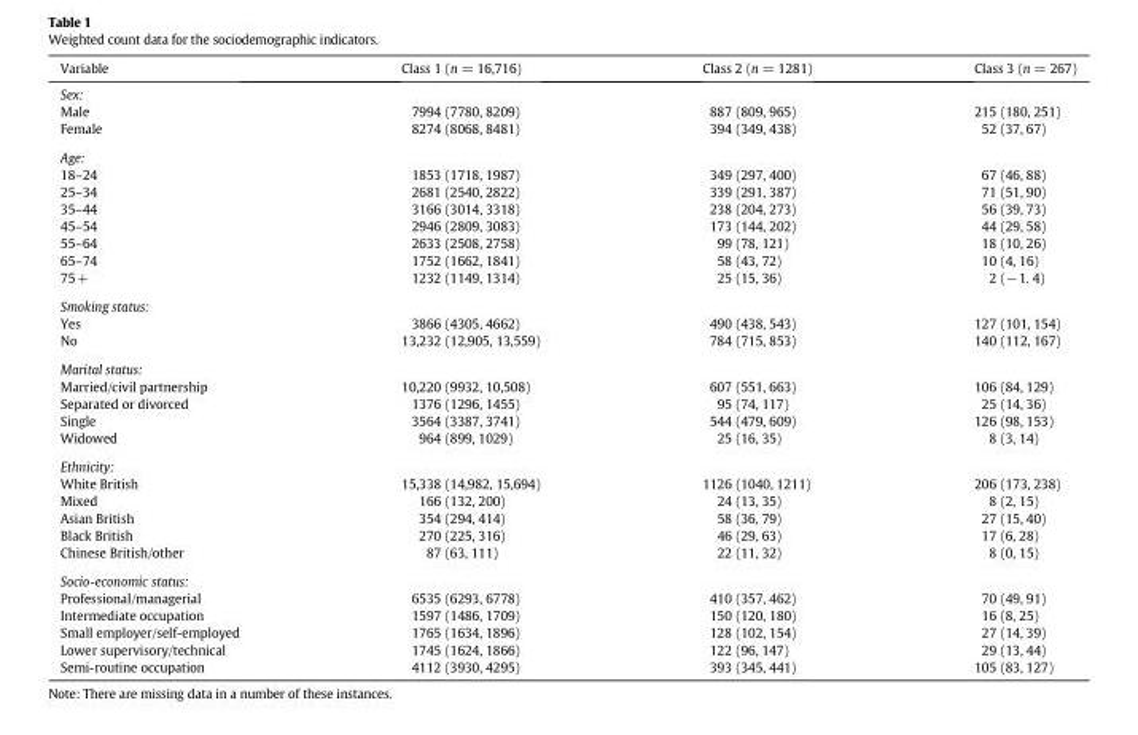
<table><thead><tr><td>Variable</td><td>Class 1 (n = 16,716)</td><td>Class 2 (n = 1281)</td><td>Class 3 (n = 267)</td></tr></thead><tbody><tr><td colspan="4">Sex:</td></tr><tr><td>Male</td><td>7994 (7780, 8209)</td><td>887 (809, 965)</td><td>215 (180, 251)</td></tr><tr><td>Female</td><td>8274 (8068, 8481)</td><td>394 (349, 438)</td><td>52 (37, 67)</td></tr><tr><td colspan="4">Age:</td></tr><tr><td>18–24</td><td>1853 (1718, 1987)</td><td>349 (297, 400)</td><td>67 (46, 88)</td></tr><tr><td>25–34</td><td>2681 (2540, 2822)</td><td>339 (291, 387)</td><td>71 (51, 90)</td></tr><tr><td>35–44</td><td>3166 (3014, 3318)</td><td>238 (204, 273)</td><td>56 (39, 73)</td></tr><tr><td>45–54</td><td>2946 (2809, 3083)</td><td>173 (144, 202)</td><td>44 (29, 58)</td></tr><tr><td>55–64</td><td>2633 (2508, 2758)</td><td>99 (78, 121)</td><td>18 (10, 26)</td></tr><tr><td>65–74</td><td>1752 (1662, 1841)</td><td>58 (43, 72)</td><td>10 (4, 16)</td></tr><tr><td>75+</td><td>1232 (1149, 1314)</td><td>25 (15, 36)</td><td>2 (−1. 4)</td></tr><tr><td colspan="4">Smoking status:</td></tr><tr><td>Yes</td><td>3866 (4305, 4662)</td><td>490 (438, 543)</td><td>127 (101, 154)</td></tr><tr><td>No</td><td>13,232 (12,905, 13,559)</td><td>784 (715, 853)</td><td>140 (112, 167)</td></tr><tr><td colspan="4">Marital status:</td></tr><tr><td>Married/civil partnership</td><td>10,220 (9932, 10,508)</td><td>607 (551, 663)</td><td>106 (84, 129)</td></tr><tr><td>Separated or divorced</td><td>1376 (1296, 1455)</td><td>95 (74, 117)</td><td>25 (14, 36)</td></tr><tr><td>Single</td><td>3564 (3387, 3741)</td><td>544 (479, 609)</td><td>126 (98, 153)</td></tr><tr><td>Widowed</td><td>964 (899, 1029)</td><td>25 (16, 35)</td><td>8 (3, 14)</td></tr><tr><td colspan="4">Ethnicity:</td></tr><tr><td>White British</td><td>15,338 (14,982, 15,694)</td><td>1126 (1040, 1211)</td><td>206 (173, 238)</td></tr><tr><td>Mixed</td><td>166 (132, 200)</td><td>24 (13, 35)</td><td>8 (2, 15)</td></tr><tr><td>Asian British</td><td>354 (294, 414)</td><td>58 (36, 79)</td><td>27 (15, 40)</td></tr><tr><td>Black British</td><td>270 (225, 316)</td><td>46 (29, 63)</td><td>17 (6, 28)</td></tr><tr><td>Chinese British/other</td><td>87 (63, 111)</td><td>22 (11, 32)</td><td>8 (0, 15)</td></tr><tr><td colspan="4">Socio-economic status:</td></tr><tr><td>Professional/managerial</td><td>6535 (6293, 6778)</td><td>410 (357, 462)</td><td>70 (49, 91)</td></tr><tr><td>Intermediate occupation</td><td>1597 (1486, 1709)</td><td>150 (120, 180)</td><td>16 (8, 25)</td></tr><tr><td>Small employer/self-employed</td><td>1765 (1634, 1896)</td><td>128 (102, 154)</td><td>27 (14, 39)</td></tr><tr><td>Lower supervisory/technical</td><td>1745 (1624, 1866)</td><td>122 (96, 147)</td><td>29 (13, 44)</td></tr><tr><td>Semi-routine occupation</td><td>4112 (3930, 4295)</td><td>393 (345, 441)</td><td>105 (83, 127)</td></tr></tbody></table>